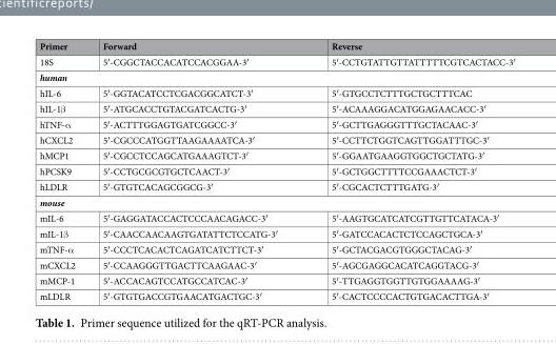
<table><thead><tr><td>Primer</td><td>Forward</td><td>Reverse</td></tr></thead><tbody><tr><td>18S</td><td>5′-CGGCTACCACATCCACGGAA-3′</td><td>5′-CCTGTATTGTTATTTTTCGTCACTACC-3′</td></tr><tr><td colspan="3">human</td></tr><tr><td>hIL-6</td><td>5′-GGTACATCCTCGACGGCATCT-3′</td><td>5′-GTGCCTCTTTGCTGCTTTCAC</td></tr><tr><td>hIL-1β</td><td>5′-ATGCACCTGTACGATCACTG-3′</td><td>5′-ACAAAGGACATGGAGAACACC-3′</td></tr><tr><td>hTNF-α</td><td>5′-ACTTTGGAGTGATCGGCC-3′</td><td>5′-GCTTGAGGGTTTGCTACAAC-3′</td></tr><tr><td>hCXCL2</td><td>5′-CGCCCATGGTTAAGAAAATCA-3′</td><td>5′-CCTTCTGGTCAGTTGGATTTGC-3′</td></tr><tr><td>hMCP1</td><td>5′-CGCCTCCAGCATGAAAGTCT-3′</td><td>5′-GGAATGAAGGTGGCTGCTATG-3′</td></tr><tr><td>hPCSK9</td><td>5′-CCTGCGCGTGCTCAACT-3′</td><td>5′-GCTGGCTTTTCCGAAACTCT-3′</td></tr><tr><td>hLDLR</td><td>5′-GTGTCACAGCGGCG-3′</td><td>5′-CGCACTCTTTGATG-3′</td></tr><tr><td colspan="3">mouse</td></tr><tr><td>mIL-6</td><td>5′-GAGGATACCACTCCCAACAGACC-3′</td><td>5′-AAGTGCATCATCGTTGTTCATACA-3′</td></tr><tr><td>mIL-1β</td><td>5′-CAACCAACAAGTGATATTCTCCATG-3′</td><td>5′-GATCCACACTCTCCAGCTGCA-3′</td></tr><tr><td>mTNF-α</td><td>5′-CCCTCACACTCAGATCATCTTCT-3′</td><td>5′-GCTACGACGTGGGCTACAG-3′</td></tr><tr><td>mCXCL2</td><td>5′-CCAAGGGTTGACTTCAAGAAC-3′</td><td>5′-AGCGAGGCACATCAGGTACG-3′</td></tr><tr><td>mMCP-1</td><td>5′-ACCACAGTCCATGCCATCAC-3′</td><td>5′-TTGAGGTGGTTGTGGAAAAG-3′</td></tr><tr><td>mLDLR</td><td>5′-GTGTGACCGTGAACATGACTGC-3′</td><td>5′-CACTCCCCACTGTGACACTTGA-3′</td></tr></tbody></table>